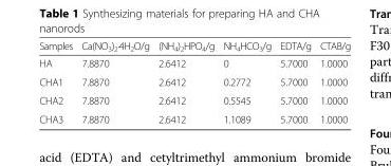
<table><thead><tr><td>Samples</td><td>Ca(NO<sub>3</sub>)<sub>2</sub>·4H<sub>2</sub>O/g</td><td>(NH<sub>4</sub>)<sub>2</sub>HPO<sub>4</sub>/g</td><td>NH<sub>4</sub>HCO<sub>3</sub>/g</td><td>EDTA/g</td><td>CTAB/g</td></tr></thead><tbody><tr><td>HA</td><td>7.8870</td><td>2.6412</td><td>0</td><td>5.7000</td><td>1.0000</td></tr><tr><td>CHA1</td><td>7.8870</td><td>2.6412</td><td>0.2772</td><td>5.7000</td><td>1.0000</td></tr><tr><td>CHA2</td><td>7.8870</td><td>2.6412</td><td>0.5545</td><td>5.7000</td><td>1.0000</td></tr><tr><td>CHA3</td><td>7.8870</td><td>2.6412</td><td>1.1089</td><td>5.7000</td><td>1.0000</td></tr></tbody></table>